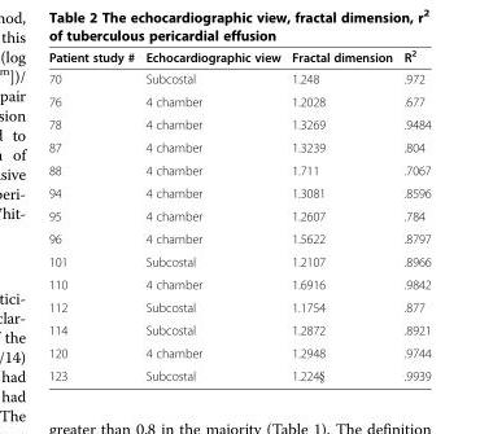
<table><thead><tr><td>Patient study #</td><td>Echocardiographic view</td><td>Fractal dimension</td><td>R<sup>2</sup></td></tr></thead><tbody><tr><td>70</td><td>Subcostal</td><td>1.248</td><td>.972</td></tr><tr><td>76</td><td>4 chamber</td><td>1.2028</td><td>.677</td></tr><tr><td>78</td><td>4 chamber</td><td>1.3269</td><td>.9484</td></tr><tr><td>87</td><td>4 chamber</td><td>1.3239</td><td>.804</td></tr><tr><td>88</td><td>4 chamber</td><td>1.711</td><td>.7067</td></tr><tr><td>94</td><td>4 chamber</td><td>1.3081</td><td>.8596</td></tr><tr><td>95</td><td>4 chamber</td><td>1.2607</td><td>.784</td></tr><tr><td>96</td><td>4 chamber</td><td>1.5622</td><td>.8797</td></tr><tr><td>101</td><td>Subcostal</td><td>1.2107</td><td>.8966</td></tr><tr><td>110</td><td>4 chamber</td><td>1.6916</td><td>.9842</td></tr><tr><td>112</td><td>Subcostal</td><td>1.1754</td><td>.877</td></tr><tr><td>114</td><td>Subcostal</td><td>1.2872</td><td>.8921</td></tr><tr><td>120</td><td>4 chamber</td><td>1.2948</td><td>.9744</td></tr><tr><td>123</td><td>Subcostal</td><td>1.224§</td><td>.9939</td></tr></tbody></table>